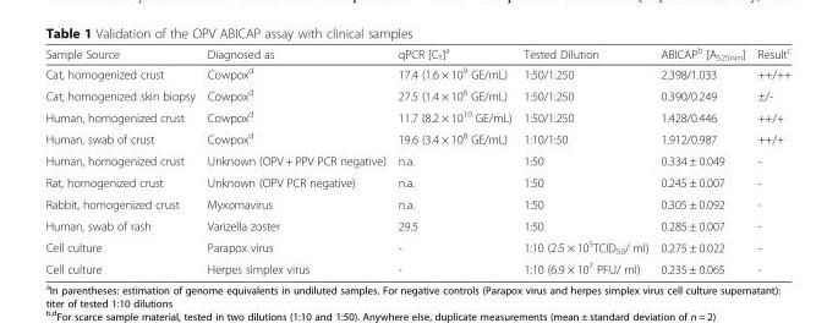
<table><thead><tr><td>Sample Source</td><td>Diagnosed as</td><td>qPCR [C<sub>T</sub>]<sup>a</sup></td><td>Tested Dilution</td><td>ABICAP<sup>b</sup> [A<sub>525nm</sub>]</td><td>Result<sup>c</sup></td></tr></thead><tbody><tr><td>Cat, homogenized crust</td><td>Cowpox<sup>d</sup></td><td>17.4 (1.6 × 10<sup>9</sup> GE/mL)</td><td>1:50/1:250</td><td>2.398/1.033</td><td>++/++</td></tr><tr><td>Cat, homogenized skin biopsy</td><td>Cowpox<sup>d</sup></td><td>27.5 (1.4 × 10<sup>6</sup> GE/mL)</td><td>1:50/1:250</td><td>0.390/0.249</td><td>±/-</td></tr><tr><td>Human, homogenized crust</td><td>Cowpox<sup>d</sup></td><td>11.7 (8.2 × 10<sup>10</sup> GE/mL)</td><td>1:50/1:250</td><td>1.428/0.446</td><td>++/+</td></tr><tr><td>Human, swab of crust</td><td>Cowpox<sup>d</sup></td><td>19.6 (3.4 × 10<sup>8</sup> GE/mL)</td><td>1:10/1:50</td><td>1.912/0.987</td><td>++/+</td></tr><tr><td>Human, homogenized crust</td><td>Unknown (OPV + PPV PCR negative)</td><td>n.a.</td><td>1:50</td><td>0.334 ± 0.049</td><td>-</td></tr><tr><td>Rat, homogenized crust</td><td>Unknown (OPV PCR negative)</td><td>n.a.</td><td>1:50</td><td>0.245 ± 0.007</td><td>-</td></tr><tr><td>Rabbit, homogenized crust</td><td>Myxomavirus</td><td>n.a.</td><td>1:50</td><td>0.305 ± 0.092</td><td>-</td></tr><tr><td>Human, swab of rash</td><td>Varizella zoster</td><td>29.5</td><td>1:50</td><td>0.285 ± 0.007</td><td>-</td></tr><tr><td>Cell culture</td><td>Parapox virus</td><td>-</td><td>1:10 (2.5 × 10<sup>5</sup>TCID<sub>50</sub>/ ml)</td><td>0.275 ± 0.022</td><td>-</td></tr><tr><td>Cell culture</td><td>Herpes simplex virus</td><td>-</td><td>1:10 (6.9 × 10<sup>7</sup> PFU/ ml)</td><td>0.235 ± 0.065</td><td>-</td></tr></tbody></table>